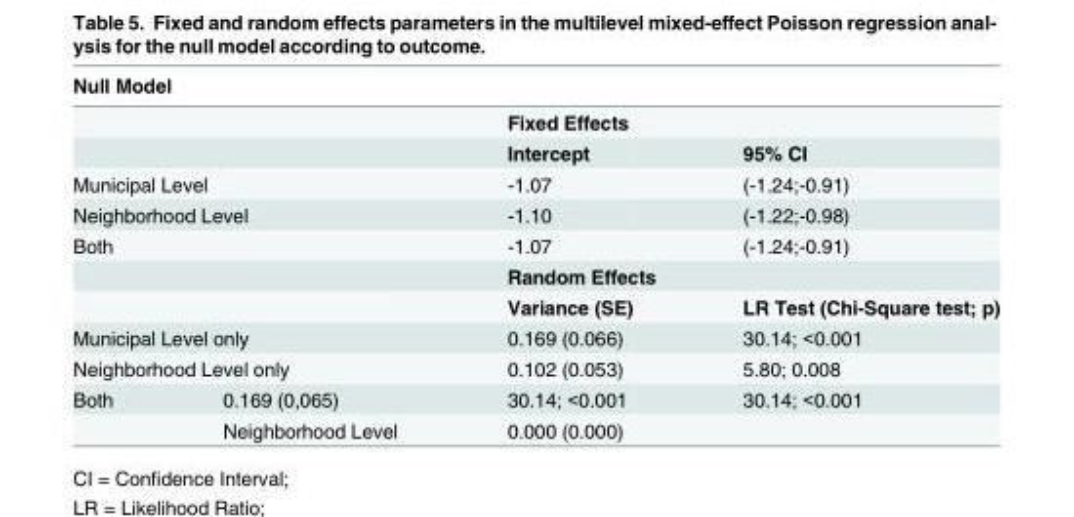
<table><thead><tr><td colspan="4">Null Model</td></tr><tr><td rowspan="2"></td><td rowspan="2"></td><td colspan="2">Fixed Effects</td></tr><tr><td>Intercept</td><td>95% CI</td></tr></thead><tbody><tr><td colspan="2">Municipal Level</td><td>-1.07</td><td>(-1.24;-0.91)</td></tr><tr><td colspan="2">Neighborhood Level</td><td>-1.10</td><td>(-1.22;-0.98)</td></tr><tr><td colspan="2">Both</td><td>-1.07</td><td>(-1.24;-0.91)</td></tr><tr><td></td><td></td><td colspan="2">Random Effects</td></tr><tr><td></td><td></td><td>Variance (SE)</td><td>LR Test (Chi-Square test; p)</td></tr><tr><td colspan="2">Municipal Level only</td><td>0.169 (0.066)</td><td>30.14; &lt;0.001</td></tr><tr><td colspan="2">Neighborhood Level only</td><td>0.102 (0.053)</td><td>5.80; 0.008</td></tr><tr><td rowspan="2">Both</td><td>0.169 (0,065)</td><td>30.14; &lt;0.001</td><td>30.14; &lt;0.001</td></tr><tr><td>Neighborhood Level</td><td>0.000 (0.000)</td><td></td></tr></tbody></table>